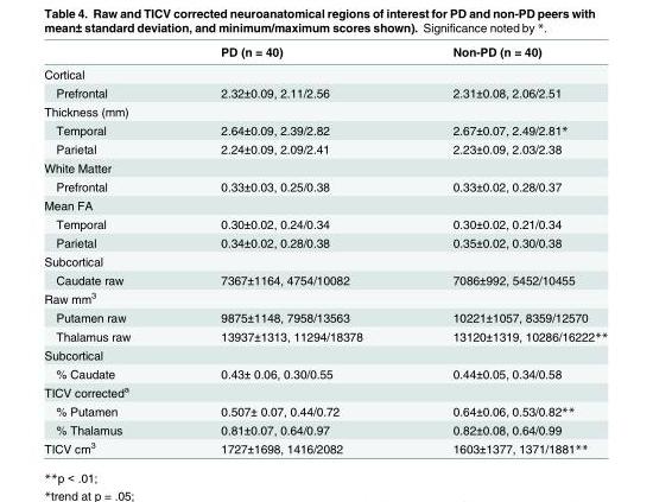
<table><thead><tr><td></td><td>PD (n = 40)</td><td>Non-PD (n = 40)</td></tr></thead><tbody><tr><td colspan="3">Cortical</td></tr><tr><td>Prefrontal</td><td>2.32±0.09, 2.11/2.56</td><td>2.31±0.08, 2.06/2.51</td></tr><tr><td colspan="3">Thickness (mm)</td></tr><tr><td>Temporal</td><td>2.64±0.09, 2.39/2.82</td><td>2.67±0.07, 2.49/2.81*</td></tr><tr><td>Parietal</td><td>2.24±0.09, 2.09/2.41</td><td>2.23±0.09, 2.03/2.38</td></tr><tr><td colspan="3">White Matter</td></tr><tr><td>Prefrontal</td><td>0.33±0.03, 0.25/0.38</td><td>0.33±0.02, 0.28/0.37</td></tr><tr><td colspan="3">Mean FA</td></tr><tr><td>Temporal</td><td>0.30±0.02, 0.24/0.34</td><td>0.30±0.02, 0.21/0.34</td></tr><tr><td>Parietal</td><td>0.34±0.02, 0.28/0.38</td><td>0.35±0.02, 0.30/0.38</td></tr><tr><td colspan="3">Subcortical</td></tr><tr><td>Caudate raw</td><td>7367±1164, 4754/10082</td><td>7086±992, 5452/10455</td></tr><tr><td colspan="3">Raw mm<sup>3</sup></td></tr><tr><td>Putamen raw</td><td>9875±1148, 7958/13563</td><td>10221±1057, 8359/12570</td></tr><tr><td>Thalamus raw</td><td>13937±1313, 11294/18378</td><td>13120±1319, 10286/16222**</td></tr><tr><td colspan="3">Subcortical</td></tr><tr><td>% Caudate</td><td>0.43± 0.06, 0.30/0.55</td><td>0.44±0.05, 0.34/0.58</td></tr><tr><td colspan="3">TICV corrected<sup>a</sup></td></tr><tr><td>% Putamen</td><td>0.507± 0.07, 0.44/0.72</td><td>0.64±0.06, 0.53/0.82**</td></tr><tr><td>% Thalamus</td><td>0.81±0.07, 0.64/0.97</td><td>0.82±0.08, 0.64/0.99</td></tr><tr><td>TICV cm<sup>3</sup></td><td>1727±1698, 1416/2082</td><td>1603±1377, 1371/1881**</td></tr></tbody></table>